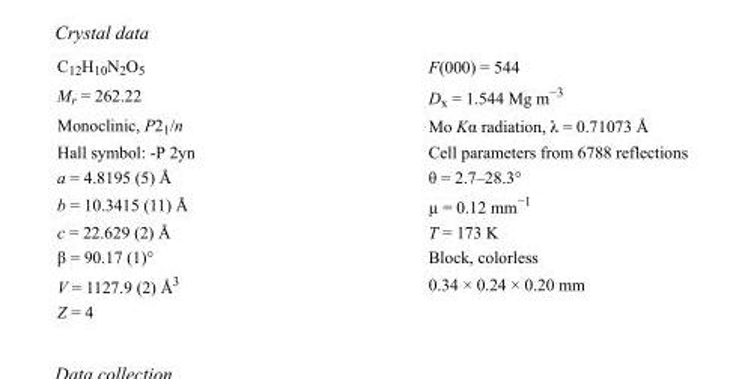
<table><tbody><tr><td>C<sub>12</sub>H<sub>10</sub>N<sub>2</sub>O<sub>5</sub></td><td>F(000) = 544</td></tr><tr><td>M<sub>r</sub> = 262.22</td><td>D<sub>x</sub> = 1.544 Mg m<sup>−3</sup></td></tr><tr><td>Monoclinic, P2<sub>1</sub>/n</td><td>Mo Kα radiation, λ = 0.71073 Å</td></tr><tr><td>Hall symbol: -P 2yn</td><td>Cell parameters from 6788 reflections</td></tr><tr><td>a = 4.8195 (5) Å</td><td>θ = 2.7–28.3°</td></tr><tr><td>b = 10.3415 (11) Å</td><td>µ = 0.12 mm<sup>−1</sup></td></tr><tr><td>c = 22.629 (2) Å</td><td>T = 173 K</td></tr><tr><td>β = 90.17 (1)°</td><td>Block, colorless</td></tr><tr><td>V = 1127.9 (2) Å<sup>3</sup></td><td>0.34 × 0.24 × 0.20 mm</td></tr><tr><td>Z = 4</td><td></td></tr></tbody></table>